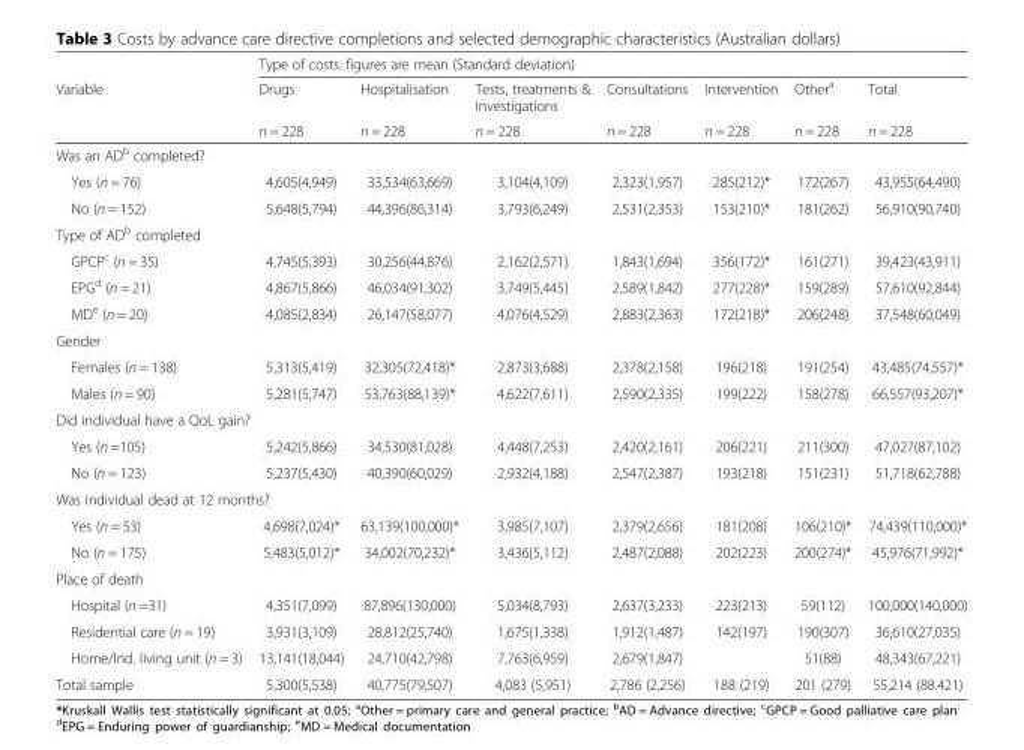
<table><thead><tr><td rowspan="3">Variable</td><td colspan="7">Type of costs: figures are mean (Standard deviation)</td></tr><tr><td rowspan="2">Drugs n = 228</td><td rowspan="2">Hospitalisation n = 228</td><td rowspan="2">Tests, treatments &amp; Investigations n = 228</td><td rowspan="2">Consultations n = 228</td><td rowspan="2">Intervention n = 228</td><td rowspan="2">Other<sup>a</sup> n = 228</td><td rowspan="2">Total n = 228</td></tr><tr></tr></thead><tbody><tr><td colspan="8">Was an AD<sup>b</sup> completed?</td></tr><tr><td>Yes (n = 76)</td><td>4,605(4,949)</td><td>33,534(63,669)</td><td>3,104(4,109)</td><td>2,323(1,957)</td><td>285(212)*</td><td>172(267)</td><td>43,955(64,490)</td></tr><tr><td>No (n = 152)</td><td>5,648(5,794)</td><td>44,396(86,314)</td><td>3,793(6,249)</td><td>2,531(2,353)</td><td>153(210)*</td><td>181(262)</td><td>56,910(90,740)</td></tr><tr><td colspan="8">Type of AD<sup>b</sup> completed</td></tr><tr><td>GPCP<sup>c</sup> (n = 35)</td><td>4,745(5,393)</td><td>30,256(44,876)</td><td>2,162(2,571)</td><td>1,843(1,694)</td><td>356(172)*</td><td>161(271)</td><td>39,423(43,911)</td></tr><tr><td>EPG<sup>d</sup> (n = 21)</td><td>4,867(5,866)</td><td>46,034(91,302)</td><td>3,749(5,445)</td><td>2,589(1,842)</td><td>277(228)*</td><td>159(289)</td><td>57,610(92,844)</td></tr><tr><td>MD<sup>e</sup> (n = 20)</td><td>4,085(2,834)</td><td>26,147(58,077)</td><td>4,076(4,529)</td><td>2,883(2,363)</td><td>172(218)*</td><td>206(248)</td><td>37,548(60,049)</td></tr><tr><td colspan="8">Gender</td></tr><tr><td>Females (n = 138)</td><td>5,313(5,419)</td><td>32,305(72,418)*</td><td>2,873(3,688)</td><td>2,378(2,158)</td><td>196(218)</td><td>191(254)</td><td>43,485(74,557)*</td></tr><tr><td>Males (n = 90)</td><td>5,281(5,747)</td><td>53,763(88,139)*</td><td>4,622(7,611)</td><td>2,590(2,335)</td><td>199(222)</td><td>158(278)</td><td>66,557(93,207)*</td></tr><tr><td colspan="8">Did individual have a QoL gain?</td></tr><tr><td>Yes (n =105)</td><td>5,242(5,866)</td><td>34,530(81,028)</td><td>4,448(7,253)</td><td>2,420(2,161)</td><td>206(221)</td><td>211(300)</td><td>47,027(87,102)</td></tr><tr><td>No (n = 123)</td><td>5,237(5,430)</td><td>40,390(60,029)</td><td>2,932(4,188)</td><td>2,547(2,387)</td><td>193(218)</td><td>151(231)</td><td>51,718(62,788)</td></tr><tr><td colspan="8">Was individual dead at 12 months?</td></tr><tr><td>Yes (n = 53)</td><td>4,698(7,024)*</td><td>63,139(100,000)*</td><td>3,985(7,107)</td><td>2,379(2,656)</td><td>181(208)</td><td>106(210)*</td><td>74,439(110,000)*</td></tr><tr><td>No (n = 175)</td><td>5,483(5,012)*</td><td>34,002(70,232)*</td><td>3,436(5,112)</td><td>2,487(2,088)</td><td>202(223)</td><td>200(274)*</td><td>45,976(71,992)*</td></tr><tr><td colspan="8">Place of death</td></tr><tr><td>Hospital (n =31)</td><td>4,351(7,099)</td><td>87,896(130,000)</td><td>5,034(8,793)</td><td>2,637(3,233)</td><td>223(213)</td><td>59(112)</td><td>100,000(140,000)</td></tr><tr><td>Residential care (n = 19)</td><td>3,931(3,109)</td><td>28,812(25,740)</td><td>1,675(1,338)</td><td>1,912(1,487)</td><td>142(197)</td><td>190(307)</td><td>36,610(27,035)</td></tr><tr><td>Home/Ind. living unit (n = 3)</td><td>13,141(18,044)</td><td>24,710(42,798)</td><td>7,763(6,959)</td><td>2,679(1,847)</td><td></td><td>51(88)</td><td>48,343(67,221)</td></tr><tr><td>Total sample</td><td>5,300(5,538)</td><td>40,775(79,507)</td><td>4,083 (5,951)</td><td>2,786 (2,256)</td><td>188 (219)</td><td>201 (279)</td><td>55,214 (88.421)</td></tr></tbody></table>